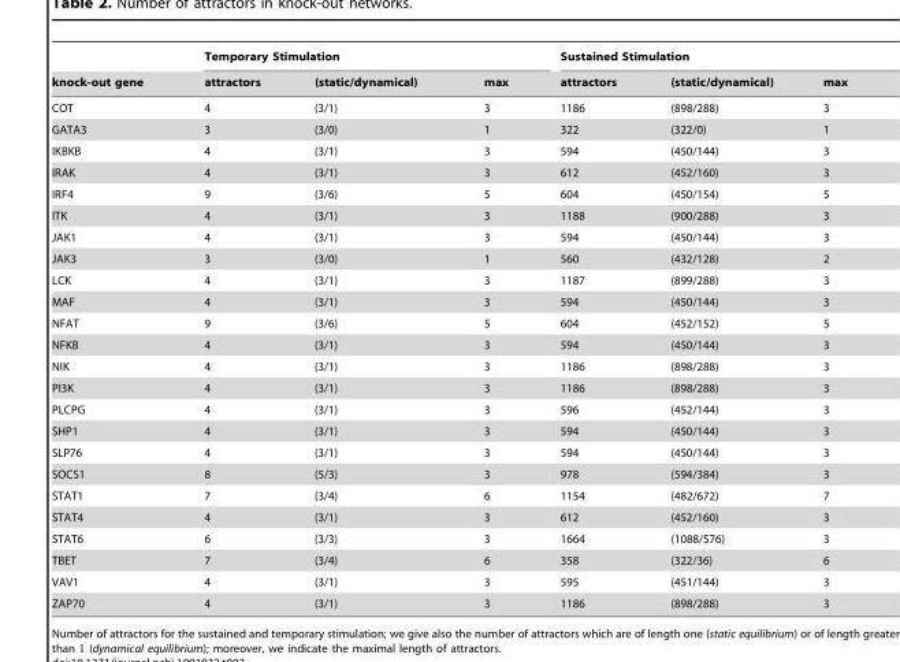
<table><thead><tr><td rowspan="2">knock-out gene</td><td colspan="3">Temporary Stimulation</td><td colspan="3">Sustained Stimulation</td></tr><tr><td>attractors</td><td>(static/dynamical)</td><td>max</td><td>attractors</td><td>(static/dynamical)</td><td>max</td></tr></thead><tbody><tr><td>COT</td><td>4</td><td>(3/1)</td><td>3</td><td>1186</td><td>(898/288)</td><td>3</td></tr><tr><td>GATA3</td><td>3</td><td>(3/0)</td><td>1</td><td>322</td><td>(322/0)</td><td>1</td></tr><tr><td>IKBKB</td><td>4</td><td>(3/1)</td><td>3</td><td>594</td><td>(450/144)</td><td>3</td></tr><tr><td>IRAK</td><td>4</td><td>(3/1)</td><td>3</td><td>612</td><td>(452/160)</td><td>3</td></tr><tr><td>IRF4</td><td>9</td><td>(3/6)</td><td>5</td><td>604</td><td>(450/154)</td><td>5</td></tr><tr><td>ITK</td><td>4</td><td>(3/1)</td><td>3</td><td>1188</td><td>(900/288)</td><td>3</td></tr><tr><td>JAK1</td><td>4</td><td>(3/1)</td><td>3</td><td>594</td><td>(450/144)</td><td>3</td></tr><tr><td>JAK3</td><td>3</td><td>(3/0)</td><td>1</td><td>560</td><td>(432/128)</td><td>2</td></tr><tr><td>LCK</td><td>4</td><td>(3/1)</td><td>3</td><td>1187</td><td>(899/288)</td><td>3</td></tr><tr><td>MAF</td><td>4</td><td>(3/1)</td><td>3</td><td>594</td><td>(450/144)</td><td>3</td></tr><tr><td>NFAT</td><td>9</td><td>(3/6)</td><td>5</td><td>604</td><td>(452/152)</td><td>5</td></tr><tr><td>NFKB</td><td>4</td><td>(3/1)</td><td>3</td><td>594</td><td>(450/144)</td><td>3</td></tr><tr><td>NIK</td><td>4</td><td>(3/1)</td><td>3</td><td>1186</td><td>(898/288)</td><td>3</td></tr><tr><td>PI3K</td><td>4</td><td>(3/1)</td><td>3</td><td>1186</td><td>(898/288)</td><td>3</td></tr><tr><td>PLCPG</td><td>4</td><td>(3/1)</td><td>3</td><td>596</td><td>(452/144)</td><td>3</td></tr><tr><td>SHP1</td><td>4</td><td>(3/1)</td><td>3</td><td>594</td><td>(450/144)</td><td>3</td></tr><tr><td>SLP76</td><td>4</td><td>(3/1)</td><td>3</td><td>594</td><td>(450/144)</td><td>3</td></tr><tr><td>SOCS1</td><td>8</td><td>(5/3)</td><td>3</td><td>978</td><td>(594/384)</td><td>3</td></tr><tr><td>STAT1</td><td>7</td><td>(3/4)</td><td>6</td><td>1154</td><td>(482/672)</td><td>7</td></tr><tr><td>STAT4</td><td>4</td><td>(3/1)</td><td>3</td><td>612</td><td>(452/160)</td><td>3</td></tr><tr><td>STAT6</td><td>6</td><td>(3/3)</td><td>3</td><td>1664</td><td>(1088/576)</td><td>3</td></tr><tr><td>TBET</td><td>7</td><td>(3/4)</td><td>6</td><td>358</td><td>(322/36)</td><td>6</td></tr><tr><td>VAV1</td><td>4</td><td>(3/1)</td><td>3</td><td>595</td><td>(451/144)</td><td>3</td></tr><tr><td>ZAP70</td><td>4</td><td>(3/1)</td><td>3</td><td>1186</td><td>(898/288)</td><td>3</td></tr></tbody></table>